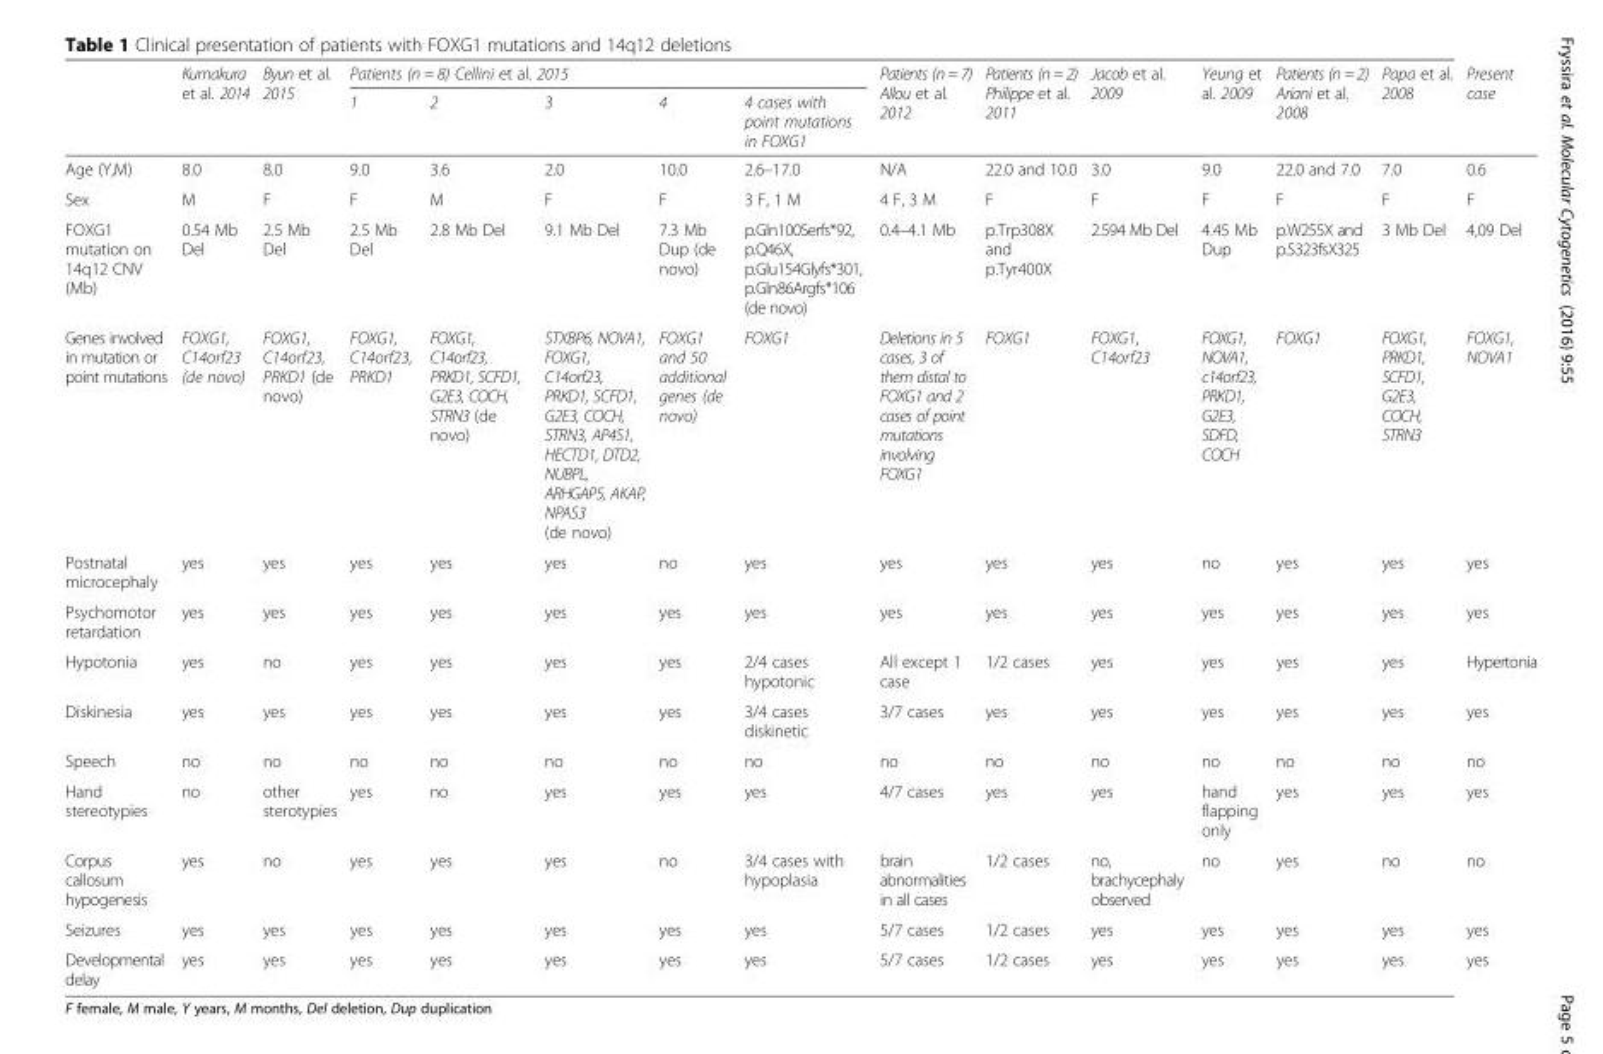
<table><thead><tr><td rowspan="2"></td><td rowspan="2">Kumakura et al. 2014</td><td rowspan="2">Byun et al. 2015</td><td colspan="5">Patients (n = 8) Cellini et al. 2015</td><td rowspan="2">Patients (n = 7) Allou et al. 2012</td><td rowspan="2">Patients (n = 2) Philippe et al. 2011</td><td rowspan="2">Jacob et al. 2009</td><td rowspan="2">Yeung et al. 2009</td><td rowspan="2">Patients (n = 2) Ariani et al. 2008</td><td rowspan="2">Papa et al. 2008</td><td rowspan="2">Present case</td></tr><tr><td>1</td><td>2</td><td>3</td><td>4</td><td>4 cases with point mutations in FOXG1</td></tr></thead><tbody><tr><td>Age (Y,M)</td><td>8.0</td><td>8.0</td><td>9.0</td><td>3.6</td><td>2.0</td><td>10.0</td><td>2.6–17.0</td><td>N/A</td><td>22.0 and 10.0</td><td>3.0</td><td>9.0</td><td>22.0 and 7.0</td><td>7.0</td><td>0.6</td></tr><tr><td>Sex</td><td>M</td><td>F</td><td>F</td><td>M</td><td>F</td><td>F</td><td>3 F, 1 M</td><td>4 F, 3 M</td><td>F</td><td>F</td><td>F</td><td>F</td><td>F</td><td>F</td></tr><tr><td>FOXG1 mutation on 14q12 CNV (Mb)</td><td>0.54 Mb Del</td><td>2.5 Mb Del</td><td>2.5 Mb Del</td><td>2.8 Mb Del</td><td>9.1 Mb Del</td><td>7.3 Mb Dup (de novo)</td><td>p.Gln100Serfs*92, p.Q46X, p.Glu154Glyfs*301, p.Gln86Argfs*106 (de novo)</td><td>0.4–4.1 Mb</td><td>p.Trp308X and p.Tyr400X</td><td>2.594 Mb Del</td><td>4.45 Mb Dup</td><td>p.W255X and p.S323fsX325</td><td>3 Mb Del</td><td>4,09 Del</td></tr><tr><td>Genes involved in mutation or point mutations</td><td>FOXG1, C14orf23 (de novo)</td><td>FOXG1, C14orf23, PRKD1 (de novo)</td><td>FOXG1, C14orf23, PRKD1</td><td>FOXG1, C14orf23, PRKD1, SCFD1, G2E3, COCH, STRN3 (de novo)</td><td>STXBP6, NOVA1, FOXG1, C14orf23, PRKD1, SCFD1, G2E3, COCH, STRN3, AP4S1, HECTD1, DTD2, NUBPL, ARHGAP5, AKAP, NPAS3 (de novo)</td><td>FOXG1 and 50 additional genes (de novo)</td><td>FOXG1</td><td>Deletions in 5 cases, 3 of them distal to FOXG1 and 2 cases of point mutations involving FOXG1</td><td>FOXG1</td><td>FOXG1, C14orf23</td><td>FOXG1, NOVA1, c14orf23, PRKD1, G2E3, SDFD, COCH</td><td>FOXG1</td><td>FOXG1, PRKD1, SCFD1, G2E3, COCH, STRN3</td><td>FOXG1, NOVA1</td></tr><tr><td>Postnatal microcephaly</td><td>yes</td><td>yes</td><td>yes</td><td>yes</td><td>yes</td><td>no</td><td>yes</td><td>yes</td><td>yes</td><td>yes</td><td>no</td><td>yes</td><td>yes</td><td>yes</td></tr><tr><td>Psychomotor retardation</td><td>yes</td><td>yes</td><td>yes</td><td>yes</td><td>yes</td><td>yes</td><td>yes</td><td>yes</td><td>yes</td><td>yes</td><td>yes</td><td>yes</td><td>yes</td><td>yes</td></tr><tr><td>Hypotonia</td><td>yes</td><td>no</td><td>yes</td><td>yes</td><td>yes</td><td>yes</td><td>2/4 cases hypotonic</td><td>All except 1 case</td><td>1/2 cases</td><td>yes</td><td>yes</td><td>yes</td><td>yes</td><td>Hypertonia</td></tr><tr><td>Diskinesia</td><td>yes</td><td>yes</td><td>yes</td><td>yes</td><td>yes</td><td>yes</td><td>3/4 cases diskinetic</td><td>3/7 cases</td><td>yes</td><td>yes</td><td>yes</td><td>yes</td><td>yes</td><td>yes</td></tr><tr><td>Speech</td><td>no</td><td>no</td><td>no</td><td>no</td><td>no</td><td>no</td><td>no</td><td>no</td><td>no</td><td>no</td><td>no</td><td>no</td><td>no</td><td>no</td></tr><tr><td>Hand stereotypies</td><td>no</td><td>other sterotypies</td><td>yes</td><td>no</td><td>yes</td><td>yes</td><td>yes</td><td>4/7 cases</td><td>yes</td><td>yes</td><td>hand flapping only</td><td>yes</td><td>yes</td><td>yes</td></tr><tr><td>Corpus callosum hypogenesis</td><td>yes</td><td>no</td><td>yes</td><td>yes</td><td>yes</td><td>no</td><td>3/4 cases with hypoplasia</td><td>brain abnormalities in all cases</td><td>1/2 cases</td><td>no, brachycephaly observed</td><td>no</td><td>yes</td><td>no</td><td>no</td></tr><tr><td>Seizures</td><td>yes</td><td>yes</td><td>yes</td><td>yes</td><td>yes</td><td>yes</td><td>yes</td><td>5/7 cases</td><td>1/2 cases</td><td>yes</td><td>yes</td><td>yes</td><td>yes</td><td>yes</td></tr><tr><td>Developmental delay</td><td>yes</td><td>yes</td><td>yes</td><td>yes</td><td>yes</td><td>yes</td><td>yes</td><td>5/7 cases</td><td>1/2 cases</td><td>yes</td><td>yes</td><td>yes</td><td>yes</td><td>yes</td></tr></tbody></table>